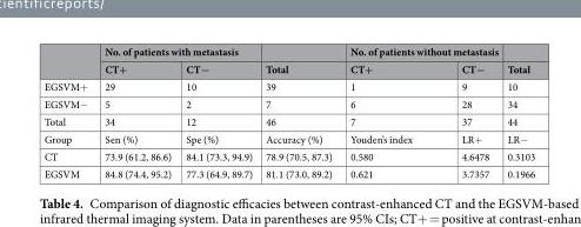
<table><thead><tr><td rowspan="2"></td><td colspan="2">No. of patients with metastasis</td><td rowspan="2">Total</td><td colspan="2">No. of patients without metastasis</td><td rowspan="2">Total</td></tr><tr><td>CT+</td><td>CT−</td><td>CT+</td><td>CT−</td></tr></thead><tbody><tr><td>EGSVM+</td><td>29</td><td>10</td><td>39</td><td>1</td><td>9</td><td>10</td></tr><tr><td>EGSVM−</td><td>5</td><td>2</td><td>7</td><td>6</td><td>28</td><td>34</td></tr><tr><td>Total</td><td>34</td><td>12</td><td>46</td><td>7</td><td>37</td><td>44</td></tr><tr><td>Group</td><td>Sen (%)</td><td>Spe (%)</td><td>Accuracy (%)</td><td>Youden’s index</td><td>LR+</td><td>LR−</td></tr><tr><td>CT</td><td>73.9 (61.2, 86.6)</td><td>84.1 (73.3, 94.9)</td><td>78.9 (70.5, 87.3)</td><td>0.580</td><td>4.6478</td><td>0.3103</td></tr><tr><td>EGSVM</td><td>84.8 (74.4, 95.2)</td><td>77.3 (64.9, 89.7)</td><td>81.1 (73.0, 89.2)</td><td>0.621</td><td>3.7357</td><td>0.1966</td></tr></tbody></table>